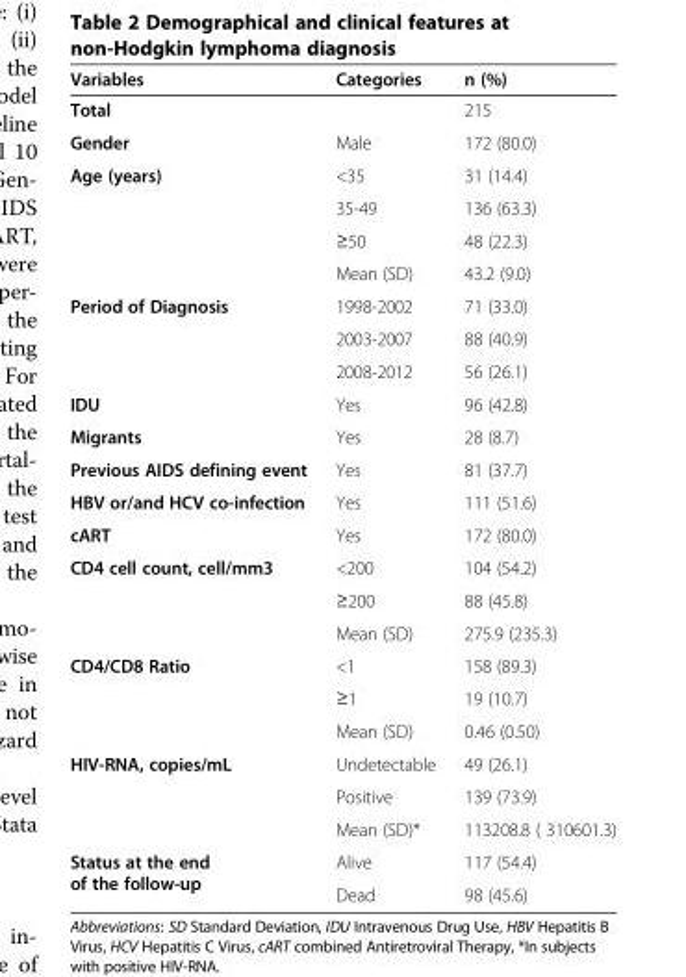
<table><thead><tr><td>Variables</td><td>Categories</td><td>n (%)</td></tr></thead><tbody><tr><td>Total</td><td></td><td>215</td></tr><tr><td>Gender</td><td>Male</td><td>172 (80.0)</td></tr><tr><td rowspan="4">Age (years)</td><td>&lt;35</td><td>31 (14.4)</td></tr><tr><td>35-49</td><td>136 (63.3)</td></tr><tr><td>≥50</td><td>48 (22.3)</td></tr><tr><td>Mean (SD)</td><td>43.2 (9.0)</td></tr><tr><td rowspan="3">Period of Diagnosis</td><td>1998-2002</td><td>71 (33.0)</td></tr><tr><td>2003-2007</td><td>88 (40.9)</td></tr><tr><td>2008-2012</td><td>56 (26.1)</td></tr><tr><td>IDU</td><td>Yes</td><td>96 (42.8)</td></tr><tr><td>Migrants</td><td>Yes</td><td>28 (8.7)</td></tr><tr><td>Previous AIDS defining event</td><td>Yes</td><td>81 (37.7)</td></tr><tr><td>HBV or/and HCV co-infection</td><td>Yes</td><td>111 (51.6)</td></tr><tr><td>cART</td><td>Yes</td><td>172 (80.0)</td></tr><tr><td rowspan="3">CD4 cell count, cell/mm3</td><td>&lt;200</td><td>104 (54.2)</td></tr><tr><td>≥200</td><td>88 (45.8)</td></tr><tr><td>Mean (SD)</td><td>275.9 (235.3)</td></tr><tr><td rowspan="3">CD4/CD8 Ratio</td><td>&lt;1</td><td>158 (89.3)</td></tr><tr><td>≥1</td><td>19 (10.7)</td></tr><tr><td>Mean (SD)</td><td>0.46 (0.50)</td></tr><tr><td rowspan="3">HIV-RNA, copies/mL</td><td>Undetectable</td><td>49 (26.1)</td></tr><tr><td>Positive</td><td>139 (73.9)</td></tr><tr><td>Mean (SD)*</td><td>113208.8 ( 310601.3)</td></tr><tr><td rowspan="2">Status at the end of the follow-up</td><td>Alive</td><td>117 (54.4)</td></tr><tr><td>Dead</td><td>98 (45.6)</td></tr></tbody></table>